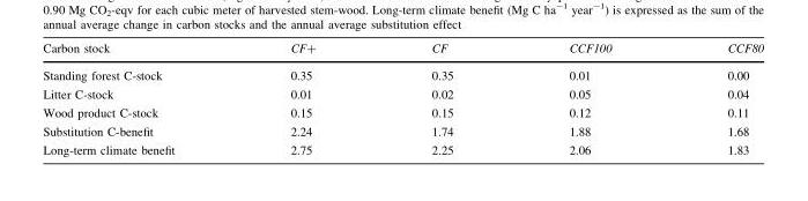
<table><thead><tr><td>Carbon stock</td><td>CF+</td><td>CF</td><td>CCF100</td><td>CCF80</td></tr></thead><tbody><tr><td>Standing forest C-stock</td><td>0.35</td><td>0.35</td><td>0.01</td><td>0.00</td></tr><tr><td>Litter C-stock</td><td>0.01</td><td>0.02</td><td>0.05</td><td>0.04</td></tr><tr><td>Wood product C-stock</td><td>0.15</td><td>0.15</td><td>0.12</td><td>0.11</td></tr><tr><td>Substitution C-benefit</td><td>2.24</td><td>1.74</td><td>1.88</td><td>1.68</td></tr><tr><td>Long-term climate benefit</td><td>2.75</td><td>2.25</td><td>2.06</td><td>1.83</td></tr></tbody></table>